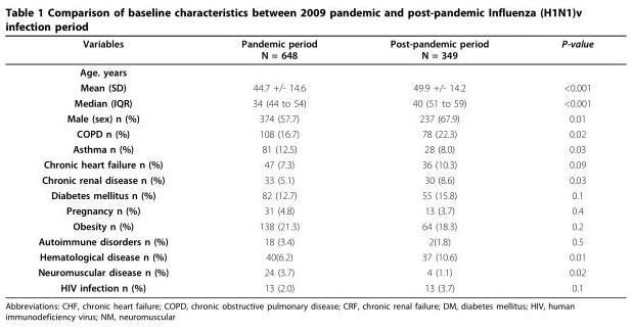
<table><thead><tr><td>Variables</td><td>Pandemic period N = 648</td><td>Post-pandemic period N = 349</td><td>P-value</td></tr></thead><tbody><tr><td colspan="4">Age. years</td></tr><tr><td>Mean (SD)</td><td>44.7 +/- 14.6</td><td>49.9 +/- 14.2</td><td>&lt;0.001</td></tr><tr><td>Median (IQR)</td><td>34 (44 to 54)</td><td>40 (51 to 59)</td><td>&lt;0.001</td></tr><tr><td>Male (sex) n (%)</td><td>374 (57.7)</td><td>237 (67.9)</td><td>0.01</td></tr><tr><td>COPD n (%)</td><td>108 (16.7)</td><td>78 (22.3)</td><td>0.02</td></tr><tr><td>Asthma n (%)</td><td>81 (12.5)</td><td>28 (8.0)</td><td>0.03</td></tr><tr><td>Chronic heart failure n (%)</td><td>47 (7.3)</td><td>36 (10.3)</td><td>0.09</td></tr><tr><td>Chronic renal disease n (%)</td><td>33 (5.1)</td><td>30 (8.6)</td><td>0.03</td></tr><tr><td>Diabetes mellitus n (%)</td><td>82 (12.7)</td><td>55 (15.8)</td><td>0.1</td></tr><tr><td>Pregnancy n (%)</td><td>31 (4.8)</td><td>13 (3.7)</td><td>0.4</td></tr><tr><td>Obesity n (%)</td><td>138 (21.3)</td><td>64 (18.3)</td><td>0.2</td></tr><tr><td>Autoimmune disorders n (%)</td><td>18 (3.4)</td><td>2(1.8)</td><td>0.5</td></tr><tr><td>Hematological disease n (%)</td><td>40(6.2)</td><td>37 (10.6)</td><td>0.01</td></tr><tr><td>Neuromuscular disease n (%)</td><td>24 (3.7)</td><td>4 (1.1)</td><td>0.02</td></tr><tr><td>HIV infection n (%)</td><td>13 (2.0)</td><td>13 (3.7)</td><td>0.1</td></tr></tbody></table>